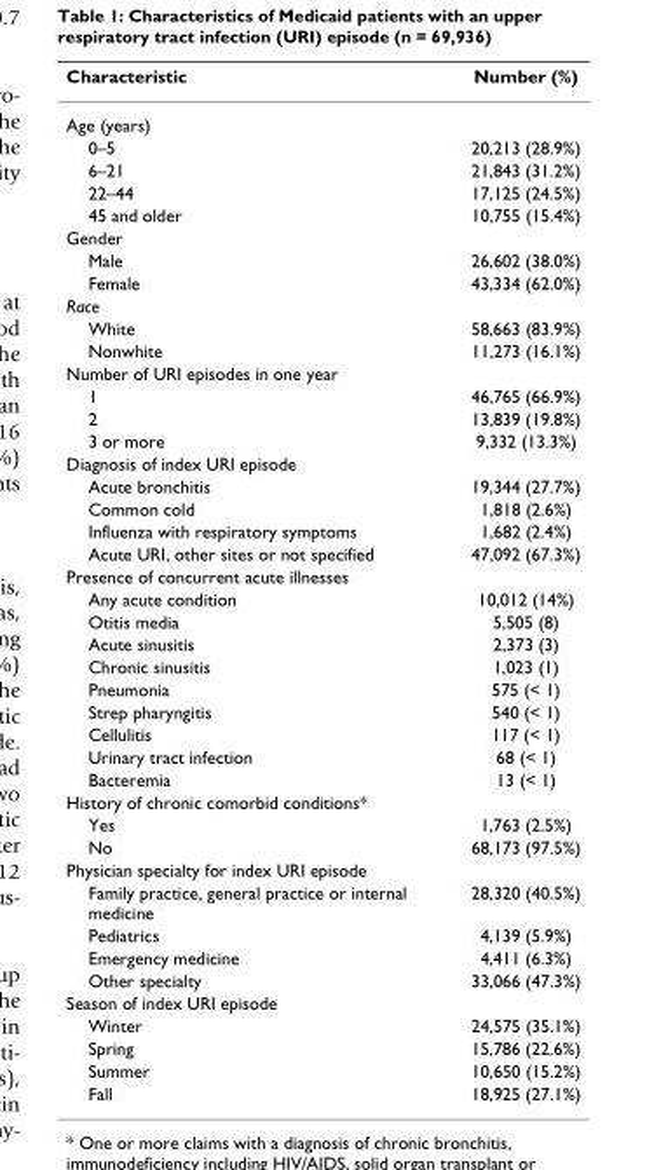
<table><thead><tr><td>Characteristic</td><td>Number (%)</td></tr></thead><tbody><tr><td colspan="2">Age (years)</td></tr><tr><td>0–5</td><td>20,213 (28.9%)</td></tr><tr><td>6–21</td><td>21,843 (31.2%)</td></tr><tr><td>22–44</td><td>17,125 (24.5%)</td></tr><tr><td>45 and older</td><td>10,755 (15.4%)</td></tr><tr><td colspan="2">Gender</td></tr><tr><td>Male</td><td>26,602 (38.0%)</td></tr><tr><td>Female</td><td>43,334 (62.0%)</td></tr><tr><td colspan="2">Race</td></tr><tr><td>White</td><td>58,663 (83.9%)</td></tr><tr><td>Nonwhite</td><td>11,273 (16.1%)</td></tr><tr><td colspan="2">Number of URI episodes in one year</td></tr><tr><td>1</td><td>46,765 (66.9%)</td></tr><tr><td>2</td><td>13,839 (19.8%)</td></tr><tr><td>3 or more</td><td>9,332 (13.3%)</td></tr><tr><td colspan="2">Diagnosis of index URI episode</td></tr><tr><td>Acute bronchitis</td><td>19,344 (27.7%)</td></tr><tr><td>Common cold</td><td>1,818 (2.6%)</td></tr><tr><td>Influenza with respiratory symptoms</td><td>1,682 (2.4%)</td></tr><tr><td>Acute URI, other sites or not specified</td><td>47,092 (67.3%)</td></tr><tr><td colspan="2">Presence of concurrent acute illnesses</td></tr><tr><td>Any acute condition</td><td>10,012 (14%)</td></tr><tr><td>Otitis media</td><td>5,505 (8)</td></tr><tr><td>Acute sinusitis</td><td>2,373 (3)</td></tr><tr><td>Chronic sinusitis</td><td>1,023 (1)</td></tr><tr><td>Pneumonia</td><td>575 (&lt; 1)</td></tr><tr><td>Strep pharyngitis</td><td>540 (&lt; 1)</td></tr><tr><td>Cellulitis</td><td>117 (&lt; 1)</td></tr><tr><td>Urinary tract infection</td><td>68 (&lt; 1)</td></tr><tr><td>Bacteremia</td><td>13 (&lt; 1)</td></tr><tr><td colspan="2">History of chronic comorbid conditions*</td></tr><tr><td>Yes</td><td>1,763 (2.5%)</td></tr><tr><td>No</td><td>68,173 (97.5%)</td></tr><tr><td colspan="2">Physician specialty for index URI episode</td></tr><tr><td>Family practice, general practice or internal medicine</td><td>28,320 (40.5%)</td></tr><tr><td>Pediatrics</td><td>4,139 (5.9%)</td></tr><tr><td>Emergency medicine</td><td>4,411 (6.3%)</td></tr><tr><td>Other specialty</td><td>33,066 (47.3%)</td></tr><tr><td colspan="2">Season of index URI episode</td></tr><tr><td>Winter</td><td>24,575 (35.1%)</td></tr><tr><td>Spring</td><td>15,786 (22.6%)</td></tr><tr><td>Summer</td><td>10,650 (15.2%)</td></tr><tr><td>Fall</td><td>18,925 (27.1%)</td></tr></tbody></table>